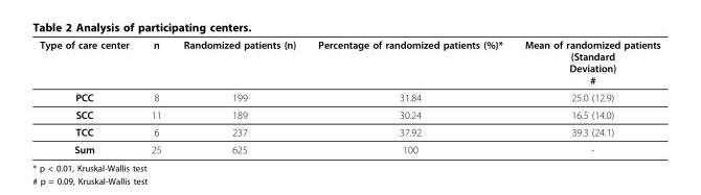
<table><thead><tr><td>Type of care center</td><td>n</td><td>Randomized patients (n)</td><td>Percentage of randomized patients (%)*</td><td>Mean of randomized patients (Standard Deviation) #</td></tr></thead><tbody><tr><td>PCC</td><td>8</td><td>199</td><td>31.84</td><td>25.0 (12.9)</td></tr><tr><td>SCC</td><td>11</td><td>189</td><td>30.24</td><td>16.5 (14.0)</td></tr><tr><td>TCC</td><td>6</td><td>237</td><td>37.92</td><td>39.3 (24.1)</td></tr><tr><td>Sum</td><td>25</td><td>625</td><td>100</td><td>-</td></tr></tbody></table>